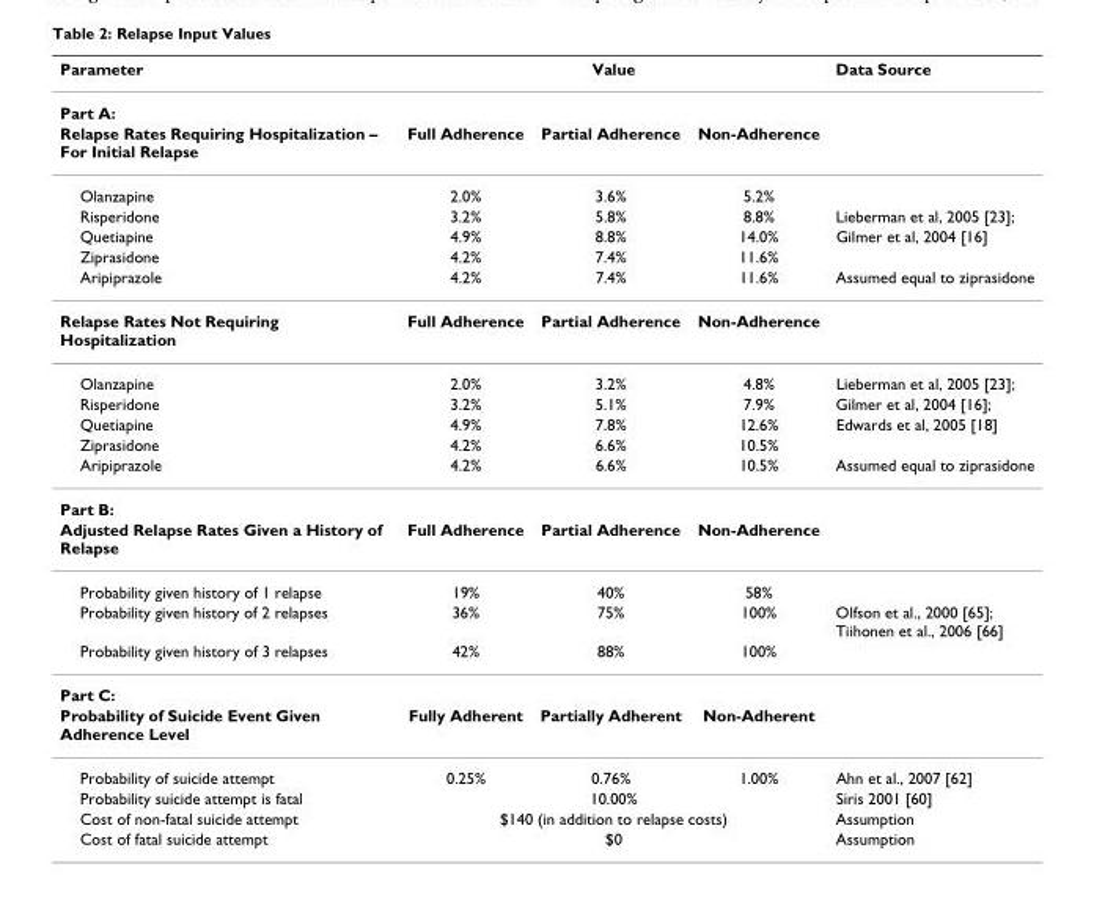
<table><thead><tr><td rowspan="2">Parameter Part A:</td><td colspan="3">Value</td><td rowspan="2">Data Source</td></tr><tr><td></td><td></td><td></td></tr></thead><tbody><tr><td>Relapse Rates Requiring Hospitalization – For Initial Relapse</td><td>Full Adherence</td><td>Partial Adherence</td><td>Non-Adherence</td><td></td></tr><tr><td>Olanzapine</td><td>2.0%</td><td>3.6%</td><td>5.2%</td><td></td></tr><tr><td>Risperidone</td><td>3.2%</td><td>5.8%</td><td>8.8%</td><td>Lieberman et al, 2005 [23];</td></tr><tr><td>Quetiapine</td><td>4.9%</td><td>8.8%</td><td>14.0%</td><td>Gilmer et al, 2004 [16]</td></tr><tr><td>Ziprasidone</td><td>4.2%</td><td>7.4%</td><td>11.6%</td><td></td></tr><tr><td>Aripiprazole</td><td>4.2%</td><td>7.4%</td><td>11.6%</td><td>Assumed equal to ziprasidone</td></tr><tr><td>Relapse Rates Not Requiring Hospitalization</td><td>Full Adherence</td><td>Partial Adherence</td><td>Non-Adherence</td><td></td></tr><tr><td>Olanzapine</td><td>2.0%</td><td>3.2%</td><td>4.8%</td><td>Lieberman et al, 2005 [23];</td></tr><tr><td>Risperidone</td><td>3.2%</td><td>5.1%</td><td>7.9%</td><td>Gilmer et al, 2004 [16];</td></tr><tr><td>Quetiapine</td><td>4.9%</td><td>7.8%</td><td>12.6%</td><td>Edwards et al, 2005 [18]</td></tr><tr><td>Ziprasidone</td><td>4.2%</td><td>6.6%</td><td>10.5%</td><td></td></tr><tr><td>Aripiprazole</td><td>4.2%</td><td>6.6%</td><td>10.5%</td><td>Assumed equal to ziprasidone</td></tr><tr><td colspan="5">Part B:</td></tr><tr><td>Adjusted Relapse Rates Given a History of Relapse</td><td>Full Adherence</td><td>Partial Adherence</td><td>Non-Adherence</td><td></td></tr><tr><td>Probability given history of 1 relapse</td><td>19%</td><td>40%</td><td>58%</td><td></td></tr><tr><td>Probability given history of 2 relapses</td><td>36%</td><td>75%</td><td>100%</td><td>Olfson et al., 2000 [65]; Tiihonen et al., 2006 [66]</td></tr><tr><td>Probability given history of 3 relapses</td><td>42%</td><td>88%</td><td>100%</td><td></td></tr><tr><td colspan="5">Part C:</td></tr><tr><td>Probability of Suicide Event Given Adherence Level</td><td>Fully Adherent</td><td>Partially Adherent</td><td>Non-Adherent</td><td></td></tr><tr><td>Probability of suicide attempt</td><td>0.25%</td><td>0.76%</td><td>1.00%</td><td>Ahn et al., 2007 [62]</td></tr><tr><td>Probability suicide attempt is fatal</td><td colspan="3">10.00%</td><td>Siris 2001 [60]</td></tr><tr><td>Cost of non-fatal suicide attempt</td><td colspan="3">$140 (in addition to relapse costs)</td><td>Assumption</td></tr><tr><td>Cost of fatal suicide attempt</td><td colspan="3">$0</td><td>Assumption</td></tr></tbody></table>